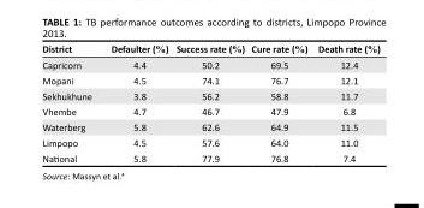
<table><thead><tr><td>District</td><td>Defaulter (%)</td><td>Success rate (%)</td><td>Cure rate (%)</td><td>Death rate (%)</td></tr></thead><tbody><tr><td>Capricorn</td><td>4.4</td><td>50.2</td><td>69.5</td><td>12.4</td></tr><tr><td>Mopani</td><td>4.5</td><td>74.1</td><td>76.7</td><td>12.1</td></tr><tr><td>Sekhukhune</td><td>3.8</td><td>56.2</td><td>58.8</td><td>11.7</td></tr><tr><td>Vhembe</td><td>4.7</td><td>46.7</td><td>47.9</td><td>6.8</td></tr><tr><td>Waterberg</td><td>5.8</td><td>62.6</td><td>64.9</td><td>11.5</td></tr><tr><td>Limpopo</td><td>4.5</td><td>57.6</td><td>64.0</td><td>11.0</td></tr><tr><td>National</td><td>5.8</td><td>77.9</td><td>76.8</td><td>7.4</td></tr></tbody></table>